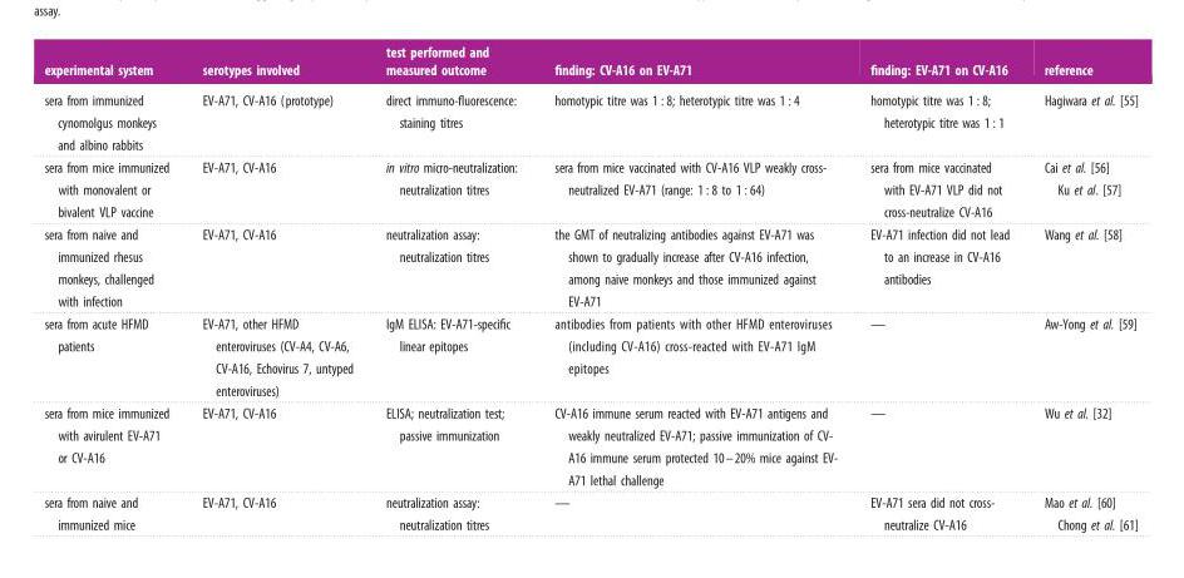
<table><thead><tr><td>experimental system</td><td>serotypes involved</td><td>test performed and measured outcome</td><td>finding: CV-A16 on EV-A71</td><td>finding: EV-A71 on CV-A16</td><td>reference</td></tr></thead><tbody><tr><td>sera from immunized cynomolgus monkeys and albino rabbits</td><td>EV-A71, CV-A16 (prototype)</td><td>direct immuno-fluorescence: staining titres</td><td>homotypic titre was 1 : 8; heterotypic titre was 1 : 4</td><td>homotypic titre was 1 : 8; heterotypic titre was 1 : 1</td><td>Hagiwara et al. [55]</td></tr><tr><td>sera from mice immunized with monovalent or bivalent VLP vaccine</td><td>EV-A71, CV-A16</td><td>in vitro micro-neutralization: neutralization titres</td><td>sera from mice vaccinated with CV-A16 VLP weakly cross- neutralized EV-A71 (range: 1 : 8 to 1 : 64)</td><td>sera from mice vaccinated with EV-A71 VLP did not cross-neutralize CV-A16</td><td>Cai et al. [56] Ku et al. [57]</td></tr><tr><td>sera from naive and immunized rhesus monkeys, challenged with infection</td><td>EV-A71, CV-A16</td><td>neutralization assay: neutralization titres</td><td>the GMT of neutralizing antibodies against EV-A71 was shown to gradually increase after CV-A16 infection, among naive monkeys and those immunized against EV-A71</td><td>EV-A71 infection did not lead to an increase in CV-A16 antibodies</td><td>Wang et al. [58]</td></tr><tr><td>sera from acute HFMD patients</td><td>EV-A71, other HFMD enteroviruses (CV-A4, CV-A6, CV-A16, Echovirus 7, untyped enteroviruses)</td><td>IgM ELISA: EV-A71-specific linear epitopes</td><td>antibodies from patients with other HFMD enteroviruses (including CV-A16) cross-reacted with EV-A71 IgM epitopes</td><td>—</td><td>Aw-Yong et al. [59]</td></tr><tr><td>sera from mice immunized with avirulent EV-A71 or CV-A16</td><td>EV-A71, CV-A16</td><td>ELISA; neutralization test; passive immunization</td><td>CV-A16 immune serum reacted with EV-A71 antigens and weakly neutralized EV-A71; passive immunization of CV- A16 immune serum protected 10–20% mice against EV- A71 lethal challenge</td><td>—</td><td>Wu et al. [32]</td></tr><tr><td>sera from naive and immunized mice</td><td>EV-A71, CV-A16</td><td>neutralization assay: neutralization titres</td><td>—</td><td>EV-A71 sera did not cross- neutralize CV-A16</td><td>Mao et al. [60] Chong et al. [61]</td></tr></tbody></table>